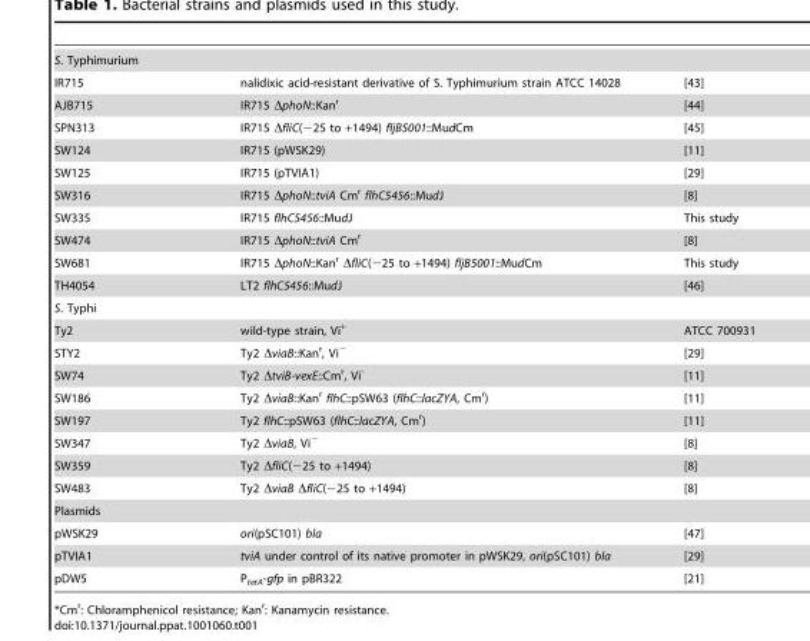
<table><tbody><tr><td colspan="3">S. Typhimurium</td></tr><tr><td>IR715</td><td>nalidixic acid-resistant derivative of S. Typhimurium strain ATCC 14028</td><td>[43]</td></tr><tr><td>AJB715</td><td>IR715 ΔphoN::Kan<sup>r</sup></td><td>[44]</td></tr><tr><td>SPN313</td><td>IR715 ΔfliC(−25 to +1494) fljB5001::MudCm</td><td>[45]</td></tr><tr><td>SW124</td><td>IR715 (pWSK29)</td><td>[11]</td></tr><tr><td>SW125</td><td>IR715 (pTVIA1)</td><td>[29]</td></tr><tr><td>SW316</td><td>IR715 ΔphoN::tviA Cm<sup>r</sup> flhC5456::MudJ</td><td>[8]</td></tr><tr><td>SW335</td><td>IR715 flhC5456::MudJ</td><td>This study</td></tr><tr><td>SW474</td><td>IR715 ΔphoN::tviA Cm<sup>r</sup></td><td>[8]</td></tr><tr><td>SW681</td><td>IR715 ΔphoN::Kan<sup>r</sup> ΔfliC(−25 to +1494) fljB5001::MudCm</td><td>This study</td></tr><tr><td>TH4054</td><td>LT2 flhC5456::MudJ</td><td>[46]</td></tr><tr><td colspan="3">S. Typhi</td></tr><tr><td>Ty2</td><td>wild-type strain, Vi<sup>+</sup></td><td>ATCC 700931</td></tr><tr><td>STY2</td><td>Ty2 ΔviaB::Kan<sup>r</sup>, Vi<sup>−</sup></td><td>[29]</td></tr><tr><td>SW74</td><td>Ty2 ΔtviB-vexE::Cm<sup>r</sup>, Vi<sup>-</sup></td><td>[11]</td></tr><tr><td>SW186</td><td>Ty2 ΔviaB::Kan<sup>r</sup> flhC::pSW63 (flhC::lacZYA, Cm<sup>r</sup>)</td><td>[11]</td></tr><tr><td>SW197</td><td>Ty2 flhC::pSW63 (flhC::lacZYA, Cm<sup>r</sup>)</td><td>[11]</td></tr><tr><td>SW347</td><td>Ty2 ΔviaB, Vi<sup>−</sup></td><td>[8]</td></tr><tr><td>SW359</td><td>Ty2 ΔfliC(−25 to +1494)</td><td>[8]</td></tr><tr><td>SW483</td><td>Ty2 ΔviaB ΔfliC(−25 to +1494)</td><td>[8]</td></tr><tr><td colspan="3">Plasmids</td></tr><tr><td>pWSK29</td><td>ori(pSC101) bla</td><td>[47]</td></tr><tr><td>pTVIA1</td><td>tviA under control of its native promoter in pWSK29, ori(pSC101) bla</td><td>[29]</td></tr><tr><td>pDW5</td><td>P<sub>tetA</sub>-gfp in pBR322</td><td>[21]</td></tr></tbody></table>